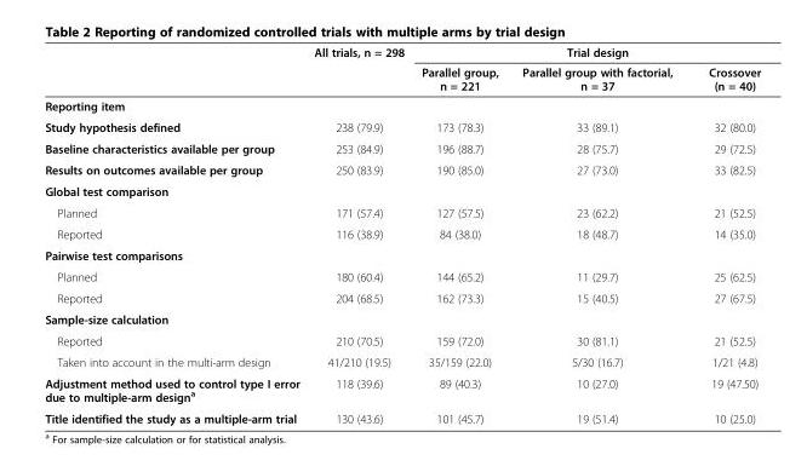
<table><thead><tr><td rowspan="2"></td><td rowspan="2">All trials, n = 298</td><td colspan="3">Trial design</td></tr><tr><td>Parallel group, n = 221</td><td>Parallel group with factorial, n = 37</td><td>Crossover (n = 40)</td></tr></thead><tbody><tr><td colspan="5">Reporting item</td></tr><tr><td>Study hypothesis defined</td><td>238 (79.9)</td><td>173 (78.3)</td><td>33 (89.1)</td><td>32 (80.0)</td></tr><tr><td>Baseline characteristics available per group</td><td>253 (84.9)</td><td>196 (88.7)</td><td>28 (75.7)</td><td>29 (72.5)</td></tr><tr><td>Results on outcomes available per group</td><td>250 (83.9)</td><td>190 (85.0)</td><td>27 (73.0)</td><td>33 (82.5)</td></tr><tr><td colspan="5">Global test comparison</td></tr><tr><td>Planned</td><td>171 (57.4)</td><td>127 (57.5)</td><td>23 (62.2)</td><td>21 (52.5)</td></tr><tr><td>Reported</td><td>116 (38.9)</td><td>84 (38.0)</td><td>18 (48.7)</td><td>14 (35.0)</td></tr><tr><td colspan="5">Pairwise test comparisons</td></tr><tr><td>Planned</td><td>180 (60.4)</td><td>144 (65.2)</td><td>11 (29.7)</td><td>25 (62.5)</td></tr><tr><td>Reported</td><td>204 (68.5)</td><td>162 (73.3)</td><td>15 (40.5)</td><td>27 (67.5)</td></tr><tr><td colspan="5">Sample-size calculation</td></tr><tr><td>Reported</td><td>210 (70.5)</td><td>159 (72.0)</td><td>30 (81.1)</td><td>21 (52.5)</td></tr><tr><td>Taken into account in the multi-arm design</td><td>41/210 (19.5)</td><td>35/159 (22.0)</td><td>5/30 (16.7)</td><td>1/21 (4.8)</td></tr><tr><td>Adjustment method used to control type I error due to multiple-arm design<sup>a</sup></td><td>118 (39.6)</td><td>89 (40.3)</td><td>10 (27.0)</td><td>19 (47.50)</td></tr><tr><td>Title identified the study as a multiple-arm trial</td><td>130 (43.6)</td><td>101 (45.7)</td><td>19 (51.4)</td><td>10 (25.0)</td></tr></tbody></table>